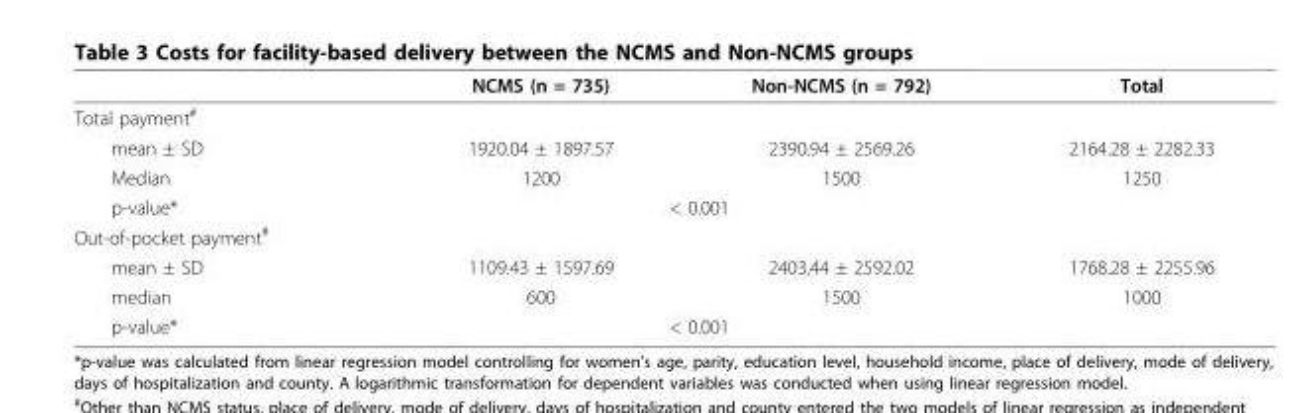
<table><thead><tr><td></td><td>NCMS (n = 735)</td><td>Non-NCMS (n = 792)</td><td>Total</td></tr></thead><tbody><tr><td colspan="4">Total payment<sup>#</sup></td></tr><tr><td>mean ± SD</td><td>1920.04 ± 1897.57</td><td>2390.94 ± 2569.26</td><td>2164.28 ± 2282.33</td></tr><tr><td>Median</td><td>1200</td><td>1500</td><td>1250</td></tr><tr><td>p-value*</td><td colspan="2">&lt; 0.001</td><td></td></tr><tr><td colspan="4">Out-of-pocket payment<sup>#</sup></td></tr><tr><td>mean ± SD</td><td>1109.43 ± 1597.69</td><td>2403.44 ± 2592.02</td><td>1768.28 ± 2255.96</td></tr><tr><td>median</td><td>600</td><td>1500</td><td>1000</td></tr><tr><td>p-value*</td><td colspan="2">&lt; 0.001</td><td></td></tr></tbody></table>